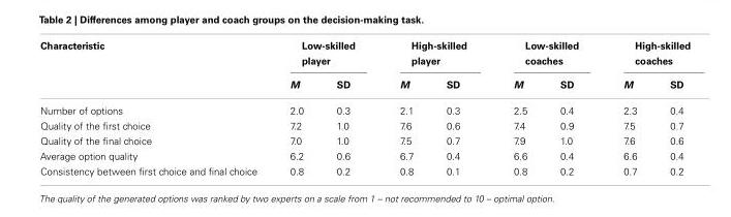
<table><thead><tr><td rowspan="2">Characteristic</td><td colspan="2">Low-skilled player</td><td colspan="2">High-skilled player</td><td colspan="2">Low-skilled coaches</td><td colspan="2">High-skilled coaches</td></tr><tr><td>M</td><td>SD</td><td>M</td><td>SD</td><td>M</td><td>SD</td><td>M</td><td>SD</td></tr></thead><tbody><tr><td>Number of options</td><td>2.0</td><td>0.3</td><td>2.1</td><td>0.3</td><td>2.5</td><td>0.4</td><td>2.3</td><td>0.4</td></tr><tr><td>Quality of the first choice</td><td>7.2</td><td>1.0</td><td>7.6</td><td>0.6</td><td>7.4</td><td>0.9</td><td>7.5</td><td>0.7</td></tr><tr><td>Quality of the final choice</td><td>7.0</td><td>1.0</td><td>7.5</td><td>0.7</td><td>7.9</td><td>1.0</td><td>7.6</td><td>0.6</td></tr><tr><td>Average option quality</td><td>6.2</td><td>0.6</td><td>6.7</td><td>0.4</td><td>6.6</td><td>0.4</td><td>6.6</td><td>0.4</td></tr><tr><td>Consistency between first choice and final choice</td><td>0.8</td><td>0.2</td><td>0.8</td><td>0.1</td><td>0.8</td><td>0.2</td><td>0.7</td><td>0.2</td></tr></tbody></table>